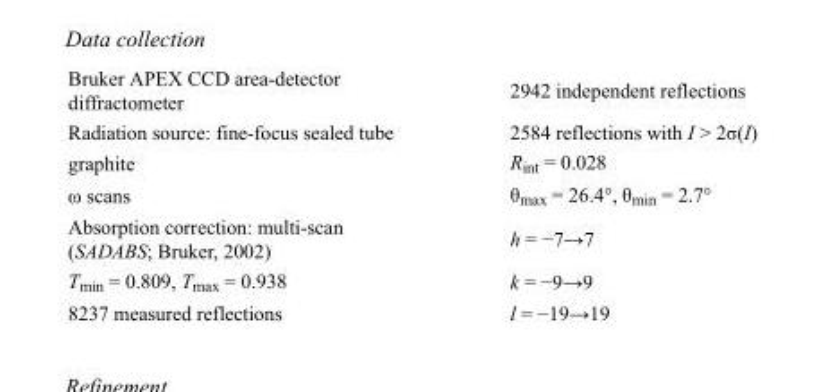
<table><tbody><tr><td>Bruker APEX CCD area-detector diffractometer</td><td>2942 independent reflections</td></tr><tr><td>Radiation source: fine-focus sealed tube</td><td>2584 reflections with I &gt; 2σ(I)</td></tr><tr><td>graphite</td><td>R<sub>int</sub> = 0.028</td></tr><tr><td>ω scans</td><td>θ<sub>max</sub> = 26.4°, θ<sub>min</sub> = 2.7°</td></tr><tr><td>Absorption correction: multi-scan (SADABS; Bruker, 2002)</td><td>h = −7→7</td></tr><tr><td>T<sub>min</sub> = 0.809, T<sub>max</sub> = 0.938</td><td>k = −9→9</td></tr><tr><td>8237 measured reflections</td><td>l = −19→19</td></tr></tbody></table>